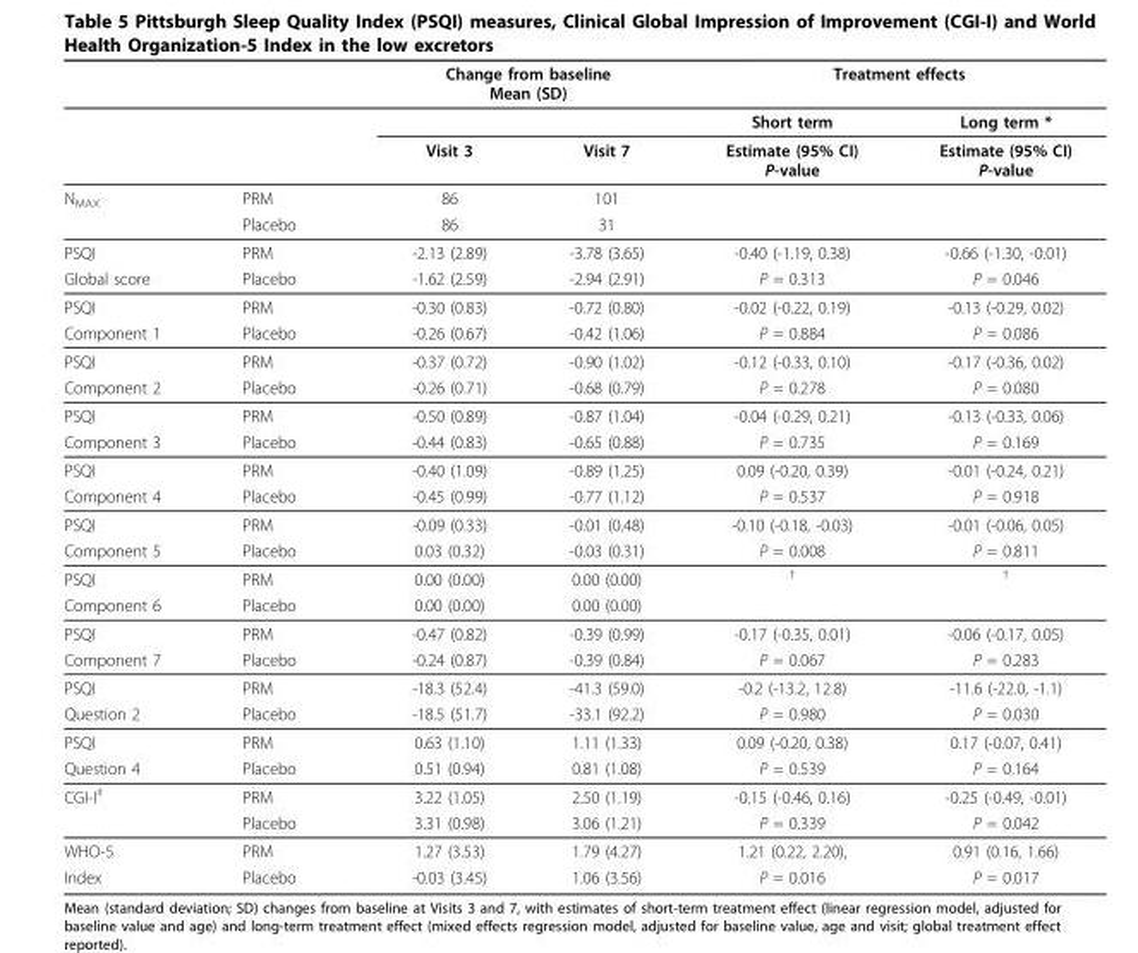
<table><thead><tr><td rowspan="2"></td><td rowspan="2"></td><td colspan="2">Change from baseline Mean (SD)</td><td colspan="2">Treatment effects</td></tr><tr><td></td><td></td><td>Short term</td><td>Long term *</td></tr></thead><tbody><tr><td></td><td></td><td>Visit 3</td><td>Visit 7</td><td>Estimate (95% CI) P-value</td><td>Estimate (95% CI) P-value</td></tr><tr><td rowspan="2">NMAX</td><td>PRM</td><td>86</td><td>101</td><td></td><td></td></tr><tr><td>Placebo</td><td>86</td><td>31</td><td></td><td></td></tr><tr><td>PSQI</td><td>PRM</td><td>-2.13 (2.89)</td><td>-3.78 (3.65)</td><td>-0.40 (-1.19, 0.38)</td><td>-0.66 (-1.30, -0.01)</td></tr><tr><td>Global score</td><td>Placebo</td><td>-1.62 (2.59)</td><td>-2.94 (2.91)</td><td>P = 0.313</td><td>P = 0.046</td></tr><tr><td>PSQI</td><td>PRM</td><td>-0.30 (0.83)</td><td>-0.72 (0.80)</td><td>-0.02 (-0.22, 0.19)</td><td>-0.13 (-0.29, 0.02)</td></tr><tr><td>Component 1</td><td>Placebo</td><td>-0.26 (0.67)</td><td>-0.42 (1.06)</td><td>P = 0.884</td><td>P = 0.086</td></tr><tr><td>PSQI</td><td>PRM</td><td>-0.37 (0.72)</td><td>-0.90 (1.02)</td><td>-0.12 (-0.33, 0.10)</td><td>-0.17 (-0.36, 0.02)</td></tr><tr><td>Component 2</td><td>Placebo</td><td>-0.26 (0.71)</td><td>-0.68 (0.79)</td><td>P = 0.278</td><td>P = 0.080</td></tr><tr><td>PSQI</td><td>PRM</td><td>-0.50 (0.89)</td><td>-0.87 (1.04)</td><td>-0.04 (-0.29, 0.21)</td><td>-0.13 (-0.33, 0.06)</td></tr><tr><td>Component 3</td><td>Placebo</td><td>-0.44 (0.83)</td><td>-0.65 (0.88)</td><td>P = 0.735</td><td>P = 0.169</td></tr><tr><td>PSQI</td><td>PRM</td><td>-0.40 (1.09)</td><td>-0.89 (1.25)</td><td>0.09 (-0.20, 0.39)</td><td>-0.01 (-0.24, 0.21)</td></tr><tr><td>Component 4</td><td>Placebo</td><td>-0.45 (0.99)</td><td>-0.77 (1.12)</td><td>P = 0.537</td><td>P = 0.918</td></tr><tr><td>PSQI</td><td>PRM</td><td>-0.09 (0.33)</td><td>-0.01 (0.48)</td><td>-0.10 (-0.18, -0.03)</td><td>-0.01 (-0.06, 0.05)</td></tr><tr><td>Component 5</td><td>Placebo</td><td>0.03 (0.32)</td><td>-0.03 (0.31)</td><td>P = 0.008</td><td>P = 0.811</td></tr><tr><td>PSQI</td><td>PRM</td><td>0.00 (0.00)</td><td>0.00 (0.00)</td><td>†</td><td>†</td></tr><tr><td>Component 6</td><td>Placebo</td><td>0.00 (0.00)</td><td>0.00 (0.00)</td><td></td><td></td></tr><tr><td>PSQI</td><td>PRM</td><td>-0.47 (0.82)</td><td>-0.39 (0.99)</td><td>-0.17 (-0.35, 0.01)</td><td>-0.06 (-0.17, 0.05)</td></tr><tr><td>Component 7</td><td>Placebo</td><td>-0.24 (0.87)</td><td>-0.39 (0.84)</td><td>P = 0.067</td><td>P = 0.283</td></tr><tr><td>PSQI</td><td>PRM</td><td>-18.3 (52.4)</td><td>-41.3 (59.0)</td><td>-0.2 (-13.2, 12.8)</td><td>-11.6 (-22.0, -1.1)</td></tr><tr><td>Question 2</td><td>Placebo</td><td>-18.5 (51.7)</td><td>-33.1 (92.2)</td><td>P = 0.980</td><td>P = 0.030</td></tr><tr><td>PSQI</td><td>PRM</td><td>0.63 (1.10)</td><td>1.11 (1.33)</td><td>0.09 (-0.20, 0.38)</td><td>0.17 (-0.07, 0.41)</td></tr><tr><td>Question 4</td><td>Placebo</td><td>0.51 (0.94)</td><td>0.81 (1.08)</td><td>P = 0.539</td><td>P = 0.164</td></tr><tr><td rowspan="2">CGI-I‡</td><td>PRM</td><td>3.22 (1.05)</td><td>2.50 (1.19)</td><td>-0.15 (-0.46, 0.16)</td><td>-0.25 (-0.49, -0.01)</td></tr><tr><td>Placebo</td><td>3.31 (0.98)</td><td>3.06 (1.21)</td><td>P = 0.339</td><td>P = 0.042</td></tr><tr><td>WHO-5</td><td>PRM</td><td>1.27 (3.53)</td><td>1.79 (4.27)</td><td>1.21 (0.22, 2.20),</td><td>0.91 (0.16, 1.66)</td></tr><tr><td>Index</td><td>Placebo</td><td>-0.03 (3.45)</td><td>1.06 (3.56)</td><td>P = 0.016</td><td>P = 0.017</td></tr></tbody></table>